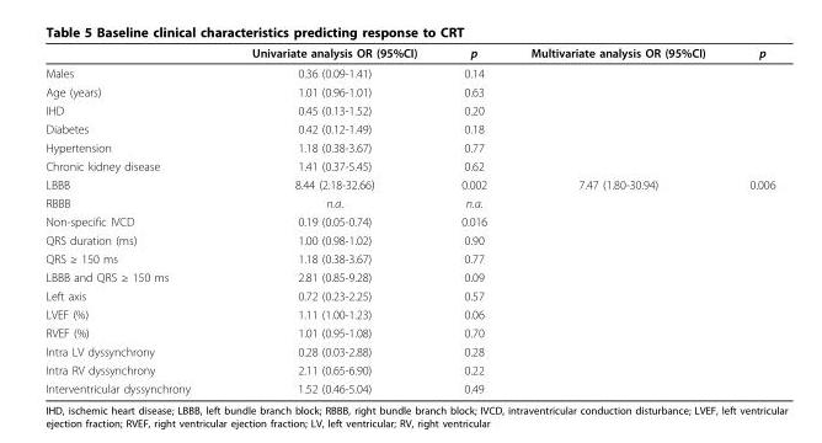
<table><thead><tr><td></td><td>Univariate analysis OR (95%CI)</td><td>p</td><td>Multivariate analysis OR (95%CI)</td><td>p</td></tr></thead><tbody><tr><td>Males</td><td>0.36 (0.09-1.41)</td><td>0.14</td><td></td><td></td></tr><tr><td>Age (years)</td><td>1.01 (0.96-1.01)</td><td>0.63</td><td></td><td></td></tr><tr><td>IHD</td><td>0.45 (0.13-1.52)</td><td>0.20</td><td></td><td></td></tr><tr><td>Diabetes</td><td>0.42 (0.12-1.49)</td><td>0.18</td><td></td><td></td></tr><tr><td>Hypertension</td><td>1.18 (0.38-3.67)</td><td>0.77</td><td></td><td></td></tr><tr><td>Chronic kidney disease</td><td>1.41 (0.37-5.45)</td><td>0.62</td><td></td><td></td></tr><tr><td>LBBB</td><td>8.44 (2.18-32.66)</td><td>0.002</td><td>7.47 (1.80-30.94)</td><td>0.006</td></tr><tr><td>RBBB</td><td>n.a.</td><td>n.a.</td><td></td><td></td></tr><tr><td>Non-specific IVCD</td><td>0.19 (0.05-0.74)</td><td>0.016</td><td></td><td></td></tr><tr><td>QRS duration (ms)</td><td>1.00 (0.98-1.02)</td><td>0.90</td><td></td><td></td></tr><tr><td>QRS ≥ 150 ms</td><td>1.18 (0.38-3.67)</td><td>0.77</td><td></td><td></td></tr><tr><td>LBBB and QRS ≥ 150 ms</td><td>2.81 (0.85-9.28)</td><td>0.09</td><td></td><td></td></tr><tr><td>Left axis</td><td>0.72 (0.23-2.25)</td><td>0.57</td><td></td><td></td></tr><tr><td>LVEF (%)</td><td>1.11 (1.00-1.23)</td><td>0.06</td><td></td><td></td></tr><tr><td>RVEF (%)</td><td>1.01 (0.95-1.08)</td><td>0.70</td><td></td><td></td></tr><tr><td>Intra LV dyssynchrony</td><td>0.28 (0.03-2.88)</td><td>0.28</td><td></td><td></td></tr><tr><td>Intra RV dyssynchrony</td><td>2.11 (0.65-6.90)</td><td>0.22</td><td></td><td></td></tr><tr><td>Interventricular dyssynchrony</td><td>1.52 (0.46-5.04)</td><td>0.49</td><td></td><td></td></tr></tbody></table>